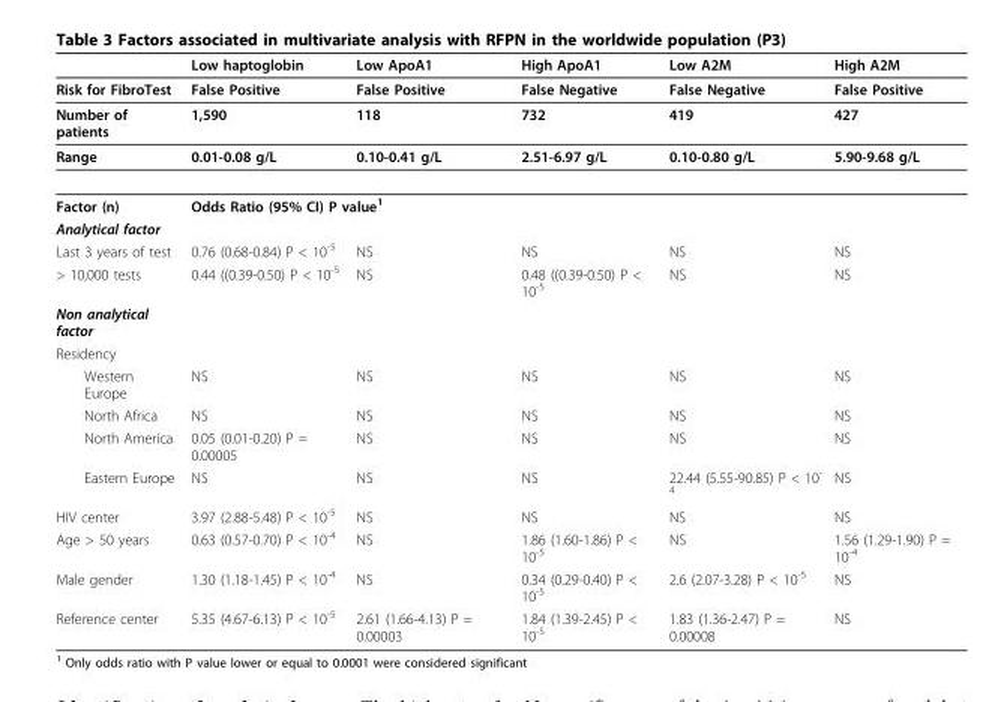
<table><thead><tr><td></td><td>Low haptoglobin</td><td>Low ApoA1</td><td>High ApoA1</td><td>Low A2M</td><td>High A2M</td></tr></thead><tbody><tr><td>Risk for FibroTest</td><td>False Positive</td><td>False Positive</td><td>False Negative</td><td>False Negative</td><td>False Positive</td></tr><tr><td>Number of patients</td><td>1,590</td><td>118</td><td>732</td><td>419</td><td>427</td></tr><tr><td>Range</td><td>0.01-0.08 g/L</td><td>0.10-0.41 g/L</td><td>2.51-6.97 g/L</td><td>0.10-0.80 g/L</td><td>5.90-9.68 g/L</td></tr><tr><td>Factor (n)</td><td colspan="2">Odds Ratio (95% CI) P value<sup>1</sup></td><td></td><td></td><td></td></tr><tr><td colspan="6">Analytical factor</td></tr><tr><td>Last 3 years of test</td><td>0.76 (0.68-0.84) P &lt; 10<sup>-5</sup></td><td>NS</td><td>NS</td><td>NS</td><td>NS</td></tr><tr><td>&gt; 10,000 tests</td><td>0.44 ((0.39-0.50) P &lt; 10<sup>-5</sup></td><td>NS</td><td>0.48 ((0.39-0.50) P &lt; 10<sup>-5</sup></td><td>NS</td><td>NS</td></tr><tr><td colspan="6">Non analytical factor</td></tr><tr><td colspan="6">Residency</td></tr><tr><td>Western Europe</td><td>NS</td><td>NS</td><td>NS</td><td>NS</td><td>NS</td></tr><tr><td>North Africa</td><td>NS</td><td>NS</td><td>NS</td><td>NS</td><td>NS</td></tr><tr><td>North America</td><td>0.05 (0.01-0.20) P = 0.00005</td><td>NS</td><td>NS</td><td>NS</td><td>NS</td></tr><tr><td>Eastern Europe</td><td>NS</td><td>NS</td><td>NS</td><td>22.44 (5.55-90.85) P &lt; 10<sup>- 4</sup></td><td>NS</td></tr><tr><td>HIV center</td><td>3.97 (2.88-5.48) P &lt; 10<sup>-5</sup></td><td>NS</td><td>NS</td><td>NS</td><td>NS</td></tr><tr><td>Age &gt; 50 years</td><td>0.63 (0.57-0.70) P &lt; 10<sup>-4</sup></td><td>NS</td><td>1.86 (1.60-1.86) P &lt; 10<sup>-5</sup></td><td>NS</td><td>1.56 (1.29-1.90) P = 10<sup>-4</sup></td></tr><tr><td>Male gender</td><td>1.30 (1.18-1.45) P &lt; 10<sup>-4</sup></td><td>NS</td><td>0.34 (0.29-0.40) P &lt; 10<sup>-5</sup></td><td>2.6 (2.07-3.28) P &lt; 10<sup>-5</sup></td><td>NS</td></tr><tr><td>Reference center</td><td>5.35 (4.67-6.13) P &lt; 10<sup>-5</sup></td><td>2.61 (1.66-4.13) P = 0.00003</td><td>1.84 (1.39-2.45) P &lt; 10<sup>-5</sup></td><td>1.83 (1.36-2.47) P = 0.00008</td><td>NS</td></tr></tbody></table>